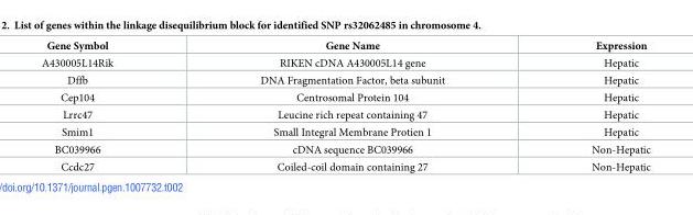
<table><thead><tr><td>Gene Symbol</td><td>Gene Name</td><td>Expression</td></tr></thead><tbody><tr><td>A430005L14Rik</td><td>RIKEN cDNA A430005L14 gene</td><td>Hepatic</td></tr><tr><td>Dffb</td><td>DNA Fragmentation Factor, beta subunit</td><td>Hepatic</td></tr><tr><td>Cep104</td><td>Centrosomal Protein 104</td><td>Hepatic</td></tr><tr><td>Lrrc47</td><td>Leucine rich repeat containing 47</td><td>Hepatic</td></tr><tr><td>Smim1</td><td>Small Integral Membrane Protien 1</td><td>Hepatic</td></tr><tr><td>BC039966</td><td>cDNA sequence BC039966</td><td>Non-Hepatic</td></tr><tr><td>Ccdc27</td><td>Coiled-coil domain containing 27</td><td>Non-Hepatic</td></tr></tbody></table>